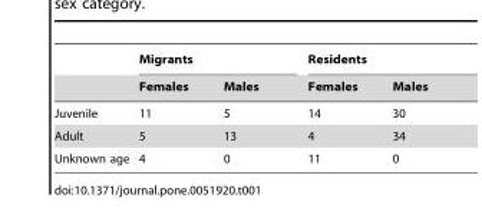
<table><thead><tr><td rowspan="2"></td><td colspan="2">Migrants</td><td colspan="2">Residents</td></tr><tr><td>Females</td><td>Males</td><td>Females</td><td>Males</td></tr></thead><tbody><tr><td>Juvenile</td><td>11</td><td>5</td><td>14</td><td>30</td></tr><tr><td>Adult</td><td>5</td><td>13</td><td>4</td><td>34</td></tr><tr><td>Unknown age</td><td>4</td><td>0</td><td>11</td><td>0</td></tr></tbody></table>